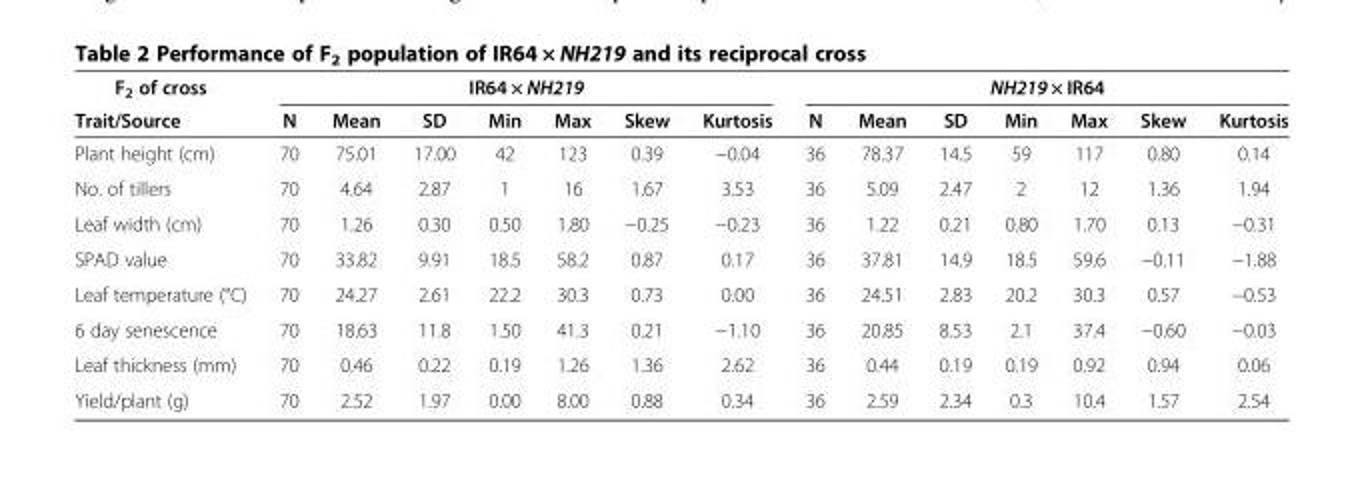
<table><thead><tr><td rowspan="2">F<sub>2</sub> of cross Trait/Source</td><td colspan="7">IR64 × NH219</td><td colspan="7">NH219 × IR64</td></tr><tr><td>N</td><td>Mean</td><td>SD</td><td>Min</td><td>Max</td><td>Skew</td><td>Kurtosis</td><td>N</td><td>Mean</td><td>SD</td><td>Min</td><td>Max</td><td>Skew</td><td>Kurtosis</td></tr></thead><tbody><tr><td>Plant height (cm)</td><td>70</td><td>75.01</td><td>17.00</td><td>42</td><td>123</td><td>0.39</td><td>−0.04</td><td>36</td><td>78.37</td><td>14.5</td><td>59</td><td>117</td><td>0.80</td><td>0.14</td></tr><tr><td>No. of tillers</td><td>70</td><td>4.64</td><td>2.87</td><td>1</td><td>16</td><td>1.67</td><td>3.53</td><td>36</td><td>5.09</td><td>2.47</td><td>2</td><td>12</td><td>1.36</td><td>1.94</td></tr><tr><td>Leaf width (cm)</td><td>70</td><td>1.26</td><td>0.30</td><td>0.50</td><td>1.80</td><td>−0.25</td><td>−0.23</td><td>36</td><td>1.22</td><td>0.21</td><td>0.80</td><td>1.70</td><td>0.13</td><td>−0.31</td></tr><tr><td>SPAD value</td><td>70</td><td>33.82</td><td>9.91</td><td>18.5</td><td>58.2</td><td>0.87</td><td>0.17</td><td>36</td><td>37.81</td><td>14.9</td><td>18.5</td><td>59.6</td><td>−0.11</td><td>−1.88</td></tr><tr><td>Leaf temperature (°C)</td><td>70</td><td>24.27</td><td>2.61</td><td>22.2</td><td>30.3</td><td>0.73</td><td>0.00</td><td>36</td><td>24.51</td><td>2.83</td><td>20.2</td><td>30.3</td><td>0.57</td><td>−0.53</td></tr><tr><td>6 day senescence</td><td>70</td><td>18.63</td><td>11.8</td><td>1.50</td><td>41.3</td><td>0.21</td><td>−1.10</td><td>36</td><td>20.85</td><td>8.53</td><td>2.1</td><td>37.4</td><td>−0.60</td><td>−0.03</td></tr><tr><td>Leaf thickness (mm)</td><td>70</td><td>0.46</td><td>0.22</td><td>0.19</td><td>1.26</td><td>1.36</td><td>2.62</td><td>36</td><td>0.44</td><td>0.19</td><td>0.19</td><td>0.92</td><td>0.94</td><td>0.06</td></tr><tr><td>Yield/plant (g)</td><td>70</td><td>2.52</td><td>1.97</td><td>0.00</td><td>8.00</td><td>0.88</td><td>0.34</td><td>36</td><td>2.59</td><td>2.34</td><td>0.3</td><td>10.4</td><td>1.57</td><td>2.54</td></tr></tbody></table>